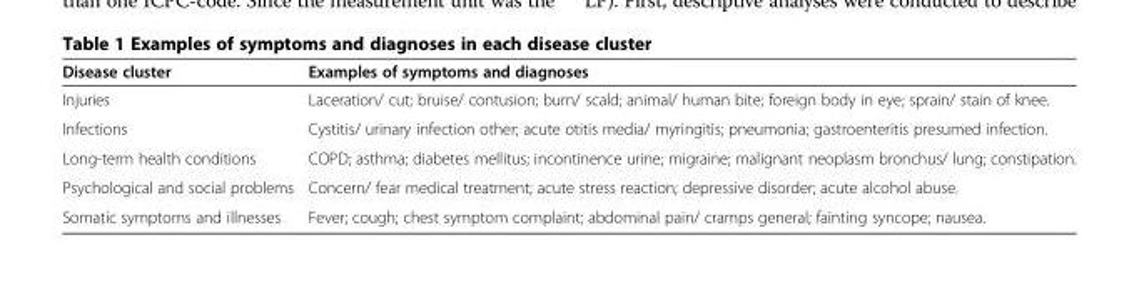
<table><thead><tr><td>Disease cluster</td><td>Examples of symptoms and diagnoses</td></tr></thead><tbody><tr><td>Injuries</td><td>Laceration/ cut; bruise/ contusion; burn/ scald; animal/ human bite; foreign body in eye; sprain/ stain of knee.</td></tr><tr><td>Infections</td><td>Cystitis/ urinary infection other; acute otitis media/ myringitis; pneumonia; gastroenteritis presumed infection.</td></tr><tr><td>Long-term health conditions</td><td>COPD; asthma; diabetes mellitus; incontinence urine; migraine; malignant neoplasm bronchus/ lung; constipation.</td></tr><tr><td>Psychological and social problems</td><td>Concern/ fear medical treatment; acute stress reaction; depressive disorder; acute alcohol abuse.</td></tr><tr><td>Somatic symptoms and illnesses</td><td>Fever; cough; chest symptom complaint; abdominal pain/ cramps general; fainting syncope; nausea.</td></tr></tbody></table>